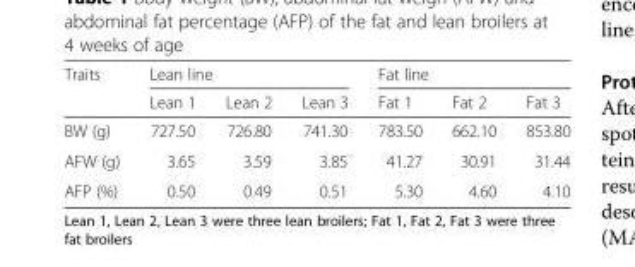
<table><thead><tr><td rowspan="2">Traits</td><td colspan="3">Lean line</td><td colspan="3">Fat line</td></tr><tr><td>Lean 1</td><td>Lean 2</td><td>Lean 3</td><td>Fat 1</td><td>Fat 2</td><td>Fat 3</td></tr></thead><tbody><tr><td>BW (g)</td><td>727.50</td><td>726.80</td><td>741.30</td><td>783.50</td><td>662.10</td><td>853.80</td></tr><tr><td>AFW (g)</td><td>3.65</td><td>3.59</td><td>3.85</td><td>41.27</td><td>30.91</td><td>31.44</td></tr><tr><td>AFP (%)</td><td>0.50</td><td>0.49</td><td>0.51</td><td>5.30</td><td>4.60</td><td>4.10</td></tr></tbody></table>